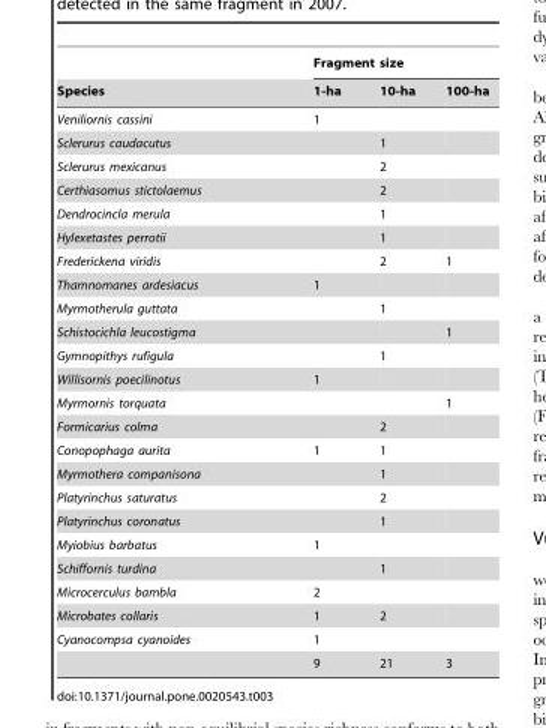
<table><thead><tr><td rowspan="2">Species</td><td colspan="3">Fragment size</td></tr><tr><td>1-ha</td><td>10-ha</td><td>100-ha</td></tr></thead><tbody><tr><td>Veniliornis cassini</td><td>1</td><td></td><td></td></tr><tr><td>Sclerurus caudacutus</td><td></td><td>1</td><td></td></tr><tr><td>Sclerurus mexicanus</td><td></td><td>2</td><td></td></tr><tr><td>Certhiasomus stictolaemus</td><td></td><td>2</td><td></td></tr><tr><td>Dendrocincla merula</td><td></td><td>1</td><td></td></tr><tr><td>Hylexetastes perrotii</td><td></td><td>1</td><td></td></tr><tr><td>Frederickena viridis</td><td></td><td>2</td><td>1</td></tr><tr><td>Thamnomanes ardesiacus</td><td>1</td><td></td><td></td></tr><tr><td>Myrmotherula guttata</td><td></td><td>1</td><td></td></tr><tr><td>Schistocichla leucostigma</td><td></td><td></td><td>1</td></tr><tr><td>Gymnopithys rufigula</td><td></td><td>1</td><td></td></tr><tr><td>Willisornis poecilinotus</td><td>1</td><td></td><td></td></tr><tr><td>Myrmornis torquata</td><td></td><td></td><td>1</td></tr><tr><td>Formicarius colma</td><td></td><td>2</td><td></td></tr><tr><td>Conopophaga aurita</td><td>1</td><td>1</td><td></td></tr><tr><td>Myrmothera companisona</td><td></td><td>1</td><td></td></tr><tr><td>Platyrinchus saturatus</td><td></td><td>2</td><td></td></tr><tr><td>Platyrinchus coronatus</td><td></td><td>1</td><td></td></tr><tr><td>Myiobius barbatus</td><td>1</td><td></td><td></td></tr><tr><td>Schiffornis turdina</td><td></td><td>1</td><td></td></tr><tr><td>Microcerculus bambla</td><td>2</td><td></td><td></td></tr><tr><td>Microbates collaris</td><td>1</td><td>2</td><td></td></tr><tr><td rowspan="2">Cyanocompsa cyanoides</td><td>1</td><td></td><td></td></tr><tr><td>9</td><td>21</td><td>3</td></tr></tbody></table>